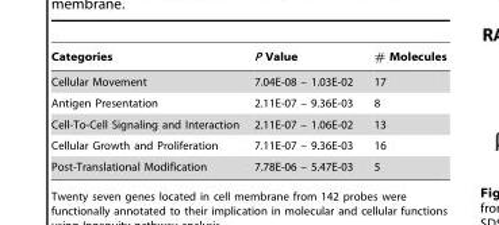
<table><thead><tr><td>Categories</td><td>P Value</td><td># Molecules</td></tr></thead><tbody><tr><td>Cellular Movement</td><td>7.04E-08 – 1.03E-02</td><td>17</td></tr><tr><td>Antigen Presentation</td><td>2.11E-07 – 9.36E-03</td><td>8</td></tr><tr><td>Cell-To-Cell Signaling and Interaction</td><td>2.11E-07 – 1.06E-02</td><td>13</td></tr><tr><td>Cellular Growth and Proliferation</td><td>7.11E-07 – 9.36E-03</td><td>16</td></tr><tr><td>Post-Translational Modification</td><td>7.78E-06 – 5.47E-03</td><td>5</td></tr></tbody></table>